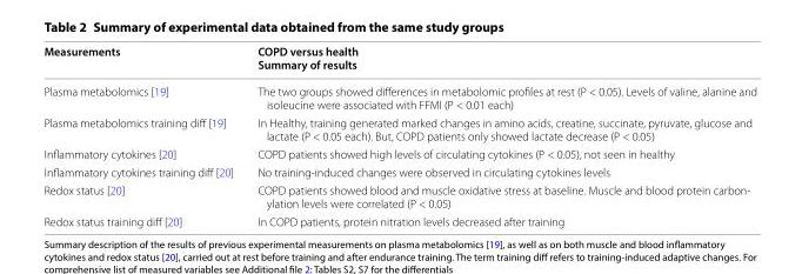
<table><thead><tr><td>Measurements</td><td>COPD versus health Summary of results</td></tr></thead><tbody><tr><td>Plasma metabolomics [19]</td><td>The two groups showed differences in metabolomic profiles at rest (P &lt; 0.05). Levels of valine, alanine and isoleucine were associated with FFMI (P &lt; 0.01 each)</td></tr><tr><td>Plasma metabolomics training diff [19]</td><td>In Healthy, training generated marked changes in amino acids, creatine, succinate, pyruvate, glucose and lactate (P &lt; 0.05 each). But, COPD patients only showed lactate decrease (P &lt; 0.05)</td></tr><tr><td>Inflammatory cytokines [20]</td><td>COPD patients showed high levels of circulating cytokines (P &lt; 0.05), not seen in healthy</td></tr><tr><td>Inflammatory cytokines training diff [20]</td><td>No training‑induced changes were observed in circulating cytokines levels</td></tr><tr><td>Redox status [20]</td><td>COPD patients showed blood and muscle oxidative stress at baseline. Muscle and blood protein carbon‑ ylation levels were correlated (P &lt; 0.05)</td></tr><tr><td>Redox status training diff [20]</td><td>In COPD patients, protein nitration levels decreased after training</td></tr></tbody></table>